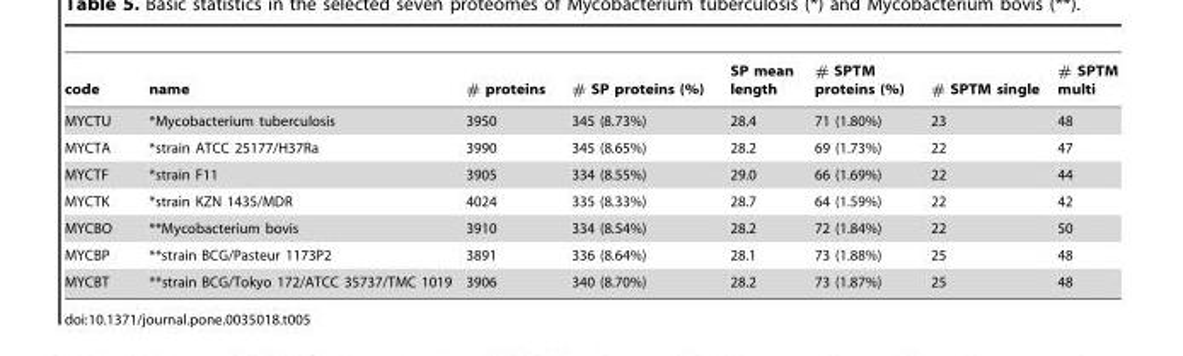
<table><thead><tr><td>code</td><td>name</td><td># proteins</td><td># SP proteins (%)</td><td>SP mean length</td><td># SPTM proteins (%)</td><td># SPTM single</td><td># SPTM multi</td></tr></thead><tbody><tr><td>MYCTU</td><td>*Mycobacterium tuberculosis</td><td>3950</td><td>345 (8.73%)</td><td>28.4</td><td>71 (1.80%)</td><td>23</td><td>48</td></tr><tr><td>MYCTA</td><td>*strain ATCC 25177/H37Ra</td><td>3990</td><td>345 (8.65%)</td><td>28.2</td><td>69 (1.73%)</td><td>22</td><td>47</td></tr><tr><td>MYCTF</td><td>*strain F11</td><td>3905</td><td>334 (8.55%)</td><td>29.0</td><td>66 (1.69%)</td><td>22</td><td>44</td></tr><tr><td>MYCTK</td><td>*strain KZN 1435/MDR</td><td>4024</td><td>335 (8.33%)</td><td>28.7</td><td>64 (1.59%)</td><td>22</td><td>42</td></tr><tr><td>MYCBO</td><td>**Mycobacterium bovis</td><td>3910</td><td>334 (8.54%)</td><td>28.2</td><td>72 (1.84%)</td><td>22</td><td>50</td></tr><tr><td>MYCBP</td><td>**strain BCG/Pasteur 1173P2</td><td>3891</td><td>336 (8.64%)</td><td>28.1</td><td>73 (1.88%)</td><td>25</td><td>48</td></tr><tr><td>MYCBT</td><td>**strain BCG/Tokyo 172/ATCC 35737/TMC 1019</td><td>3906</td><td>340 (8.70%)</td><td>28.2</td><td>73 (1.87%)</td><td>25</td><td>48</td></tr></tbody></table>